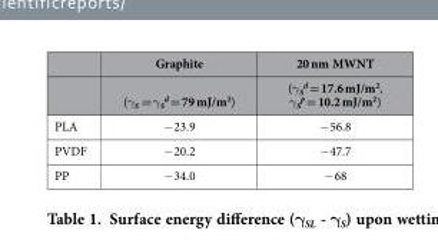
<table><thead><tr><td rowspan="2"></td><td rowspan="2">Graphite (γ <sub>S</sub> = γ <sub>S</sub> <sup>d</sup> = 79 mJ/m<sup>2</sup>)</td><td rowspan="2">20 nm MWNT (γ <sub>S</sub> <sup>d</sup> = 17.6 mJ/m<sup>2</sup>, γ <sub>S</sub> <sup>p</sup> = 10.2 mJ/m<sup>2</sup>)</td></tr><tr></tr></thead><tbody><tr><td>PLA</td><td>− 23.9</td><td>− 56.8</td></tr><tr><td>PVDF</td><td>− 20.2</td><td>− 47.7</td></tr><tr><td>PP</td><td>− 34.0</td><td>− 68</td></tr></tbody></table>